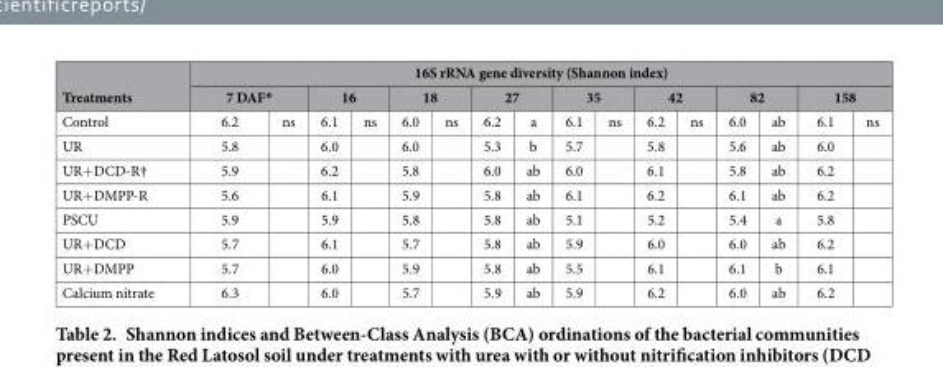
<table><thead><tr><td rowspan="3">Treatments Control</td><td colspan="16">16S rRNA gene diversity (Shannon index)</td></tr><tr><td colspan="2">7 DAF*</td><td colspan="2">16</td><td colspan="2">18</td><td colspan="2">27</td><td colspan="2">35</td><td colspan="2">42</td><td colspan="2">82</td><td colspan="2">158</td></tr><tr><td>6.2</td><td>ns</td><td>6.1</td><td>ns</td><td>6.0</td><td>ns</td><td>6.2</td><td>a</td><td>6.1</td><td>ns</td><td>6.2</td><td>ns</td><td>6.0</td><td>ab</td><td>6.1</td><td>ns</td></tr></thead><tbody><tr><td>UR</td><td>5.8</td><td></td><td>6.0</td><td></td><td>6.0</td><td></td><td>5.3</td><td>b</td><td>5.7</td><td></td><td>5.8</td><td></td><td>5.6</td><td>ab</td><td>6.0</td><td></td></tr><tr><td>UR+ DCD-R†</td><td>5.9</td><td></td><td>6.2</td><td></td><td>5.8</td><td></td><td>6.0</td><td>ab</td><td>6.0</td><td></td><td>6.1</td><td></td><td>5.8</td><td>ab</td><td>6.2</td><td></td></tr><tr><td>UR+ DMPP-R</td><td>5.6</td><td></td><td>6.1</td><td></td><td>5.9</td><td></td><td>5.8</td><td>ab</td><td>6.1</td><td></td><td>6.2</td><td></td><td>6.1</td><td>ab</td><td>6.2</td><td></td></tr><tr><td>PSCU</td><td>5.9</td><td></td><td>5.9</td><td></td><td>5.8</td><td></td><td>5.8</td><td>ab</td><td>5.1</td><td></td><td>5.2</td><td></td><td>5.4</td><td>a</td><td>5.8</td><td></td></tr><tr><td>UR+ DCD</td><td>5.7</td><td></td><td>6.1</td><td></td><td>5.7</td><td></td><td>5.8</td><td>ab</td><td>5.9</td><td></td><td>6.0</td><td></td><td>6.0</td><td>ab</td><td>6.2</td><td></td></tr><tr><td>UR+ DMPP</td><td>5.7</td><td></td><td>6.0</td><td></td><td>5.9</td><td></td><td>5.8</td><td>ab</td><td>5.5</td><td></td><td>6.1</td><td></td><td>6.1</td><td>b</td><td>6.1</td><td></td></tr><tr><td>Calcium nitrate</td><td>6.3</td><td></td><td>6.0</td><td></td><td>5.7</td><td></td><td>5.9</td><td>ab</td><td>5.9</td><td></td><td>6.2</td><td></td><td>6.0</td><td>ab</td><td>6.2</td><td></td></tr></tbody></table>